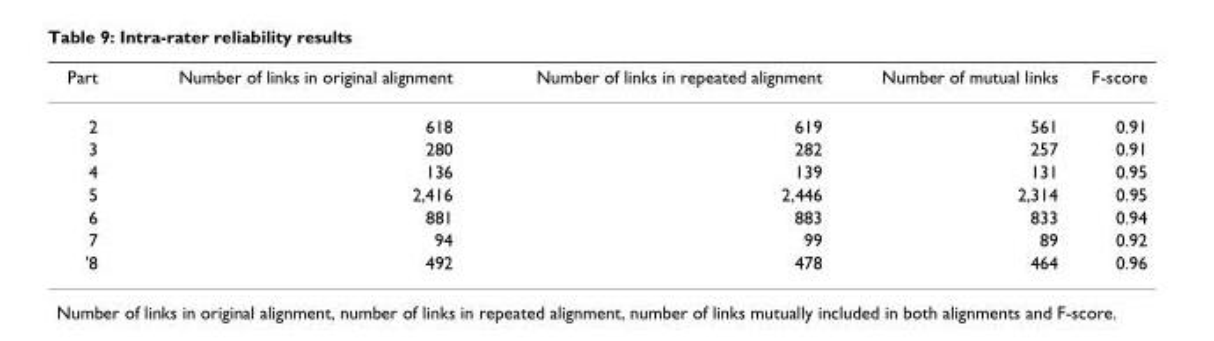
<table><thead><tr><td>Part</td><td>Number of links in original alignment</td><td>Number of links in repeated alignment</td><td>Number of mutual links</td><td>F-score</td></tr></thead><tbody><tr><td>2</td><td>618</td><td>619</td><td>561</td><td>0.91</td></tr><tr><td>3</td><td>280</td><td>282</td><td>257</td><td>0.91</td></tr><tr><td>4</td><td>136</td><td>139</td><td>131</td><td>0.95</td></tr><tr><td>5</td><td>2,416</td><td>2,446</td><td>2,314</td><td>0.95</td></tr><tr><td>6</td><td>881</td><td>883</td><td>833</td><td>0.94</td></tr><tr><td>7</td><td>94</td><td>99</td><td>89</td><td>0.92</td></tr><tr><td>&#x27;8</td><td>492</td><td>478</td><td>464</td><td>0.96</td></tr></tbody></table>